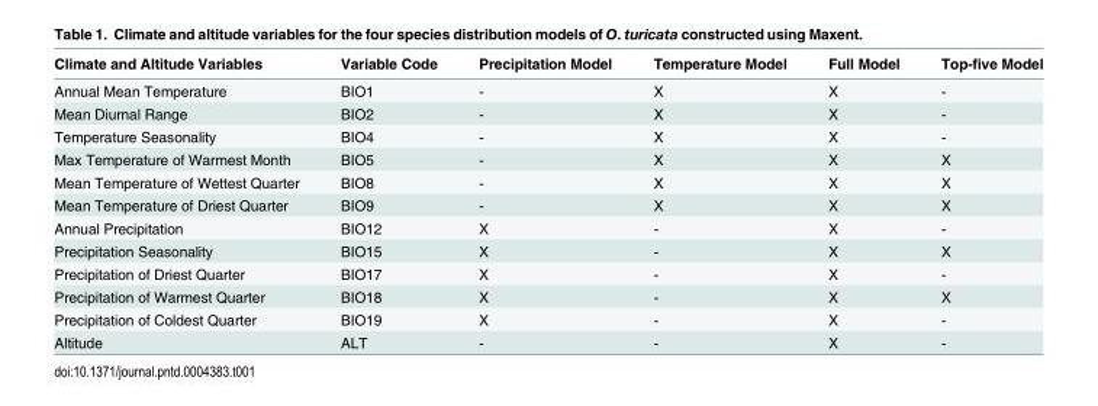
<table><thead><tr><td>Climate and Altitude Variables</td><td>Variable Code</td><td>Precipitation Model</td><td>Temperature Model</td><td>Full Model</td><td>Top-five Model</td></tr></thead><tbody><tr><td>Annual Mean Temperature</td><td>BIO1</td><td>-</td><td>X</td><td>X</td><td>-</td></tr><tr><td>Mean Diurnal Range</td><td>BIO2</td><td>-</td><td>X</td><td>X</td><td>-</td></tr><tr><td>Temperature Seasonality</td><td>BIO4</td><td>-</td><td>X</td><td>X</td><td>-</td></tr><tr><td>Max Temperature of Warmest Month</td><td>BIO5</td><td>-</td><td>X</td><td>X</td><td>X</td></tr><tr><td>Mean Temperature of Wettest Quarter</td><td>BIO8</td><td>-</td><td>X</td><td>X</td><td>X</td></tr><tr><td>Mean Temperature of Driest Quarter</td><td>BIO9</td><td>-</td><td>X</td><td>X</td><td>X</td></tr><tr><td>Annual Precipitation</td><td>BIO12</td><td>X</td><td>-</td><td>X</td><td>-</td></tr><tr><td>Precipitation Seasonality</td><td>BIO15</td><td>X</td><td>-</td><td>X</td><td>X</td></tr><tr><td>Precipitation of Driest Quarter</td><td>BIO17</td><td>X</td><td>-</td><td>X</td><td>-</td></tr><tr><td>Precipitation of Warmest Quarter</td><td>BIO18</td><td>X</td><td>-</td><td>X</td><td>X</td></tr><tr><td>Precipitation of Coldest Quarter</td><td>BIO19</td><td>X</td><td>-</td><td>X</td><td>-</td></tr><tr><td>Altitude</td><td>ALT</td><td>-</td><td>-</td><td>X</td><td>-</td></tr></tbody></table>